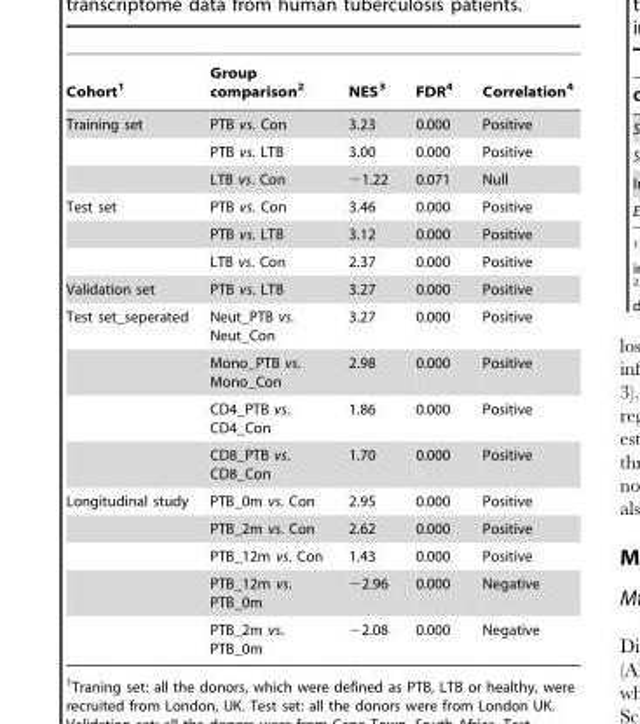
<table><thead><tr><td>Cohort<sup>1</sup></td><td>Group comparison<sup>2</sup></td><td>NES<sup>3</sup></td><td>FDR<sup>4</sup></td><td>Correlation<sup>4</sup></td></tr></thead><tbody><tr><td rowspan="3">Training set</td><td>PTB vs. Con</td><td>3.23</td><td>0.000</td><td>Positive</td></tr><tr><td>PTB vs. LTB</td><td>3.00</td><td>0.000</td><td>Positive</td></tr><tr><td>LTB vs. Con</td><td>−1.22</td><td>0.071</td><td>Null</td></tr><tr><td rowspan="3">Test set</td><td>PTB vs. Con</td><td>3.46</td><td>0.000</td><td>Positive</td></tr><tr><td>PTB vs. LTB</td><td>3.12</td><td>0.000</td><td>Positive</td></tr><tr><td>LTB vs. Con</td><td>2.37</td><td>0.000</td><td>Positive</td></tr><tr><td>Validation set</td><td>PTB vs. LTB</td><td>3.27</td><td>0.000</td><td>Positive</td></tr><tr><td rowspan="4">Test set_seperated</td><td>Neut_PTB vs. Neut_Con</td><td>3.27</td><td>0.000</td><td>Positive</td></tr><tr><td>Mono_PTB vs. Mono_Con</td><td>2.98</td><td>0.000</td><td>Positive</td></tr><tr><td>CD4_PTB vs. CD4_Con</td><td>1.86</td><td>0.000</td><td>Positive</td></tr><tr><td>CD8_PTB vs. CD8_Con</td><td>1.70</td><td>0.000</td><td>Positive</td></tr><tr><td rowspan="5">Longitudinal study</td><td>PTB_0m vs. Con</td><td>2.95</td><td>0.000</td><td>Positive</td></tr><tr><td>PTB_2m vs. Con</td><td>2.62</td><td>0.000</td><td>Positive</td></tr><tr><td>PTB_12m vs. Con</td><td>1.43</td><td>0.000</td><td>Positive</td></tr><tr><td>PTB_12m vs. PTB_0m</td><td>−2.96</td><td>0.000</td><td>Negative</td></tr><tr><td>PTB_2m vs. PTB_0m</td><td>−2.08</td><td>0.000</td><td>Negative</td></tr></tbody></table>